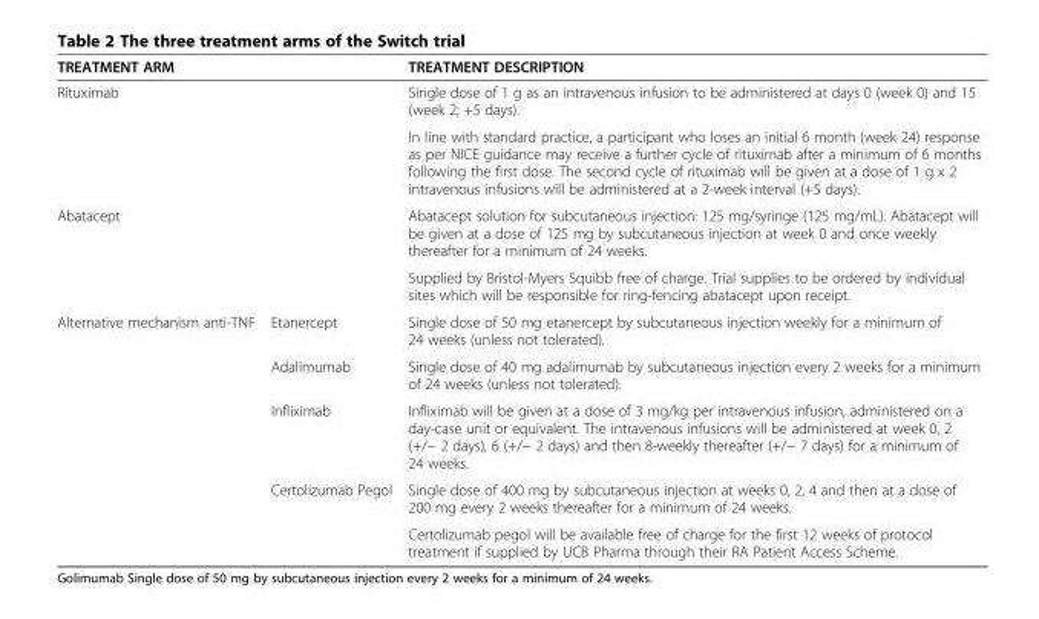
<table><thead><tr><td colspan="2">TREATMENT ARM</td><td>TREATMENT DESCRIPTION</td></tr></thead><tbody><tr><td rowspan="2" colspan="2">Rituximab</td><td>Single dose of 1 g as an intravenous infusion to be administered at days 0 (week 0) and 15 (week 2; +5 days).</td></tr><tr><td>In line with standard practice, a participant who loses an initial 6 month (week 24) response as per NICE guidance may receive a further cycle of rituximab after a minimum of 6 months following the first dose. The second cycle of rituximab will be given at a dose of 1 g x 2 intravenous infusions will be administered at a 2-week interval (+5 days).</td></tr><tr><td rowspan="2" colspan="2">Abatacept</td><td>Abatacept solution for subcutaneous injection: 125 mg/syringe (125 mg/mL). Abatacept will be given at a dose of 125 mg by subcutaneous injection at week 0 and once weekly thereafter for a minimum of 24 weeks.</td></tr><tr><td>Supplied by Bristol-Myers Squibb free of charge. Trial supplies to be ordered by individual sites which will be responsible for ring-fencing abatacept upon receipt.</td></tr><tr><td rowspan="5">Alternative mechanism anti-TNF</td><td>Etanercept</td><td>Single dose of 50 mg etanercept by subcutaneous injection weekly for a minimum of 24 weeks (unless not tolerated).</td></tr><tr><td>Adalimumab</td><td>Single dose of 40 mg adalimumab by subcutaneous injection every 2 weeks for a minimum of 24 weeks (unless not tolerated).</td></tr><tr><td>Infliximab</td><td>Infliximab will be given at a dose of 3 mg/kg per intravenous infusion, administered on a day-case unit or equivalent. The intravenous infusions will be administered at week 0, 2 (+/− 2 days), 6 (+/− 2 days) and then 8-weekly thereafter (+/− 7 days) for a minimum of 24 weeks.</td></tr><tr><td>Certolizumab Pegol</td><td>Single dose of 400 mg by subcutaneous injection at weeks 0, 2, 4 and then at a dose of 200 mg every 2 weeks thereafter for a minimum of 24 weeks.</td></tr><tr><td></td><td>Certolizumab pegol will be available free of charge for the first 12 weeks of protocol treatment if supplied by UCB Pharma through their RA Patient Access Scheme.</td></tr></tbody></table>